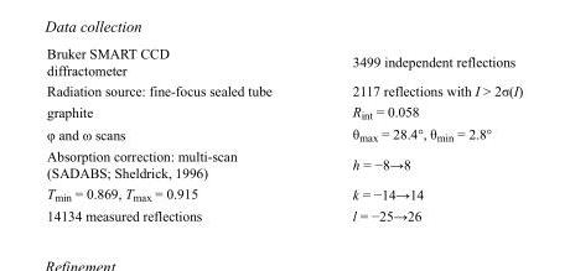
<table><tbody><tr><td>Bruker SMART CCD diffractometer</td><td>3499 independent reflections</td></tr><tr><td>Radiation source: fine-focus sealed tube</td><td>2117 reflections with I &gt; 2σ(I)</td></tr><tr><td>graphite</td><td>R<sub>int</sub> = 0.058</td></tr><tr><td>φ and ω scans</td><td>θ<sub>max</sub> = 28.4°, θ<sub>min</sub> = 2.8°</td></tr><tr><td>Absorption correction: multi-scan (SADABS; Sheldrick, 1996)</td><td>h = −8→8</td></tr><tr><td>T<sub>min</sub> = 0.869, T<sub>max</sub> = 0.915</td><td>k = −14→14</td></tr><tr><td>14134 measured reflections</td><td>l = −25→26</td></tr></tbody></table>